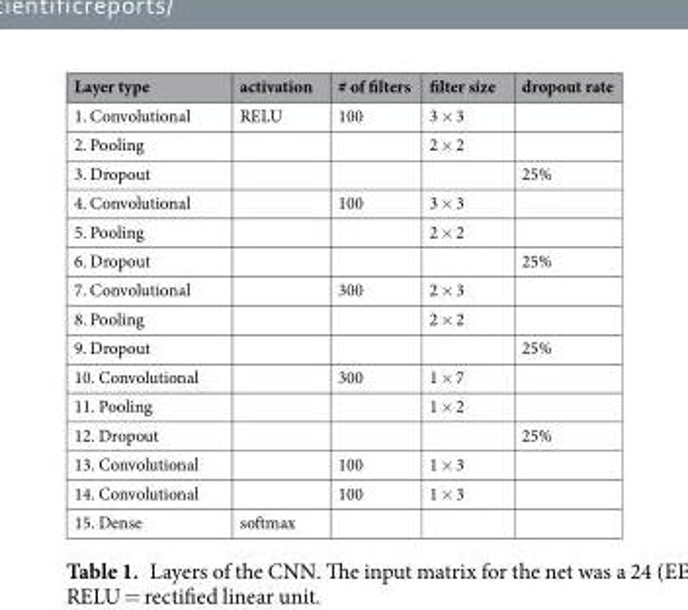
<table><thead><tr><td>Layer type</td><td>activation</td><td># of filters</td><td>filter size</td><td>dropout rate</td></tr></thead><tbody><tr><td>1. Convolutional</td><td>RELU</td><td>100</td><td>3 × 3</td><td></td></tr><tr><td>2. Pooling</td><td></td><td></td><td>2 × 2</td><td></td></tr><tr><td>3. Dropout</td><td></td><td></td><td></td><td>25%</td></tr><tr><td>4. Convolutional</td><td></td><td>100</td><td>3 × 3</td><td></td></tr><tr><td>5. Pooling</td><td></td><td></td><td>2 × 2</td><td></td></tr><tr><td>6. Dropout</td><td></td><td></td><td></td><td>25%</td></tr><tr><td>7. Convolutional</td><td></td><td>300</td><td>2 × 3</td><td></td></tr><tr><td>8. Pooling</td><td></td><td></td><td>2 × 2</td><td></td></tr><tr><td>9. Dropout</td><td></td><td></td><td></td><td>25%</td></tr><tr><td>10. Convolutional</td><td></td><td>300</td><td>1 × 7</td><td></td></tr><tr><td>11. Pooling</td><td></td><td></td><td>1 × 2</td><td></td></tr><tr><td>12. Dropout</td><td></td><td></td><td></td><td>25%</td></tr><tr><td>13. Convolutional</td><td></td><td>100</td><td>1 × 3</td><td></td></tr><tr><td>14. Convolutional</td><td></td><td>100</td><td>1 × 3</td><td></td></tr><tr><td>15. Dense</td><td>softmax</td><td></td><td></td><td></td></tr></tbody></table>